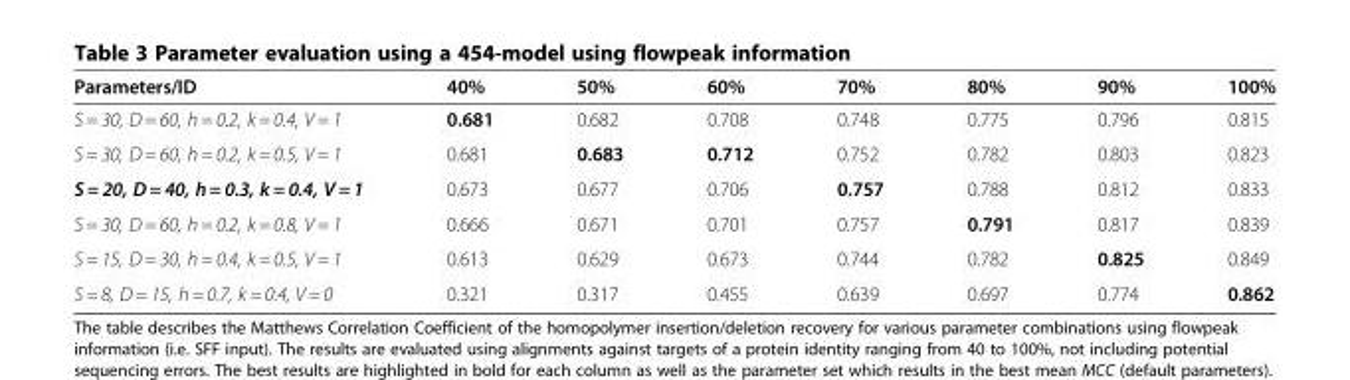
<table><thead><tr><td>Parameters/ID</td><td>40%</td><td>50%</td><td>60%</td><td>70%</td><td>80%</td><td>90%</td><td>100%</td></tr></thead><tbody><tr><td>S = 30, D = 60, h = 0.2, k = 0.4, V = 1</td><td>0.681</td><td>0.682</td><td>0.708</td><td>0.748</td><td>0.775</td><td>0.796</td><td>0.815</td></tr><tr><td>S = 30, D = 60, h = 0.2, k = 0.5, V = 1</td><td>0.681</td><td>0.683</td><td>0.712</td><td>0.752</td><td>0.782</td><td>0.803</td><td>0.823</td></tr><tr><td>S = 20, D = 40, h = 0.3, k = 0.4, V = 1</td><td>0.673</td><td>0.677</td><td>0.706</td><td>0.757</td><td>0.788</td><td>0.812</td><td>0.833</td></tr><tr><td>S = 30, D = 60, h = 0.2, k = 0.8, V = 1</td><td>0.666</td><td>0.671</td><td>0.701</td><td>0.757</td><td>0.791</td><td>0.817</td><td>0.839</td></tr><tr><td>S = 15, D = 30, h = 0.4, k = 0.5, V = 1</td><td>0.613</td><td>0.629</td><td>0.673</td><td>0.744</td><td>0.782</td><td>0.825</td><td>0.849</td></tr><tr><td>S = 8, D = 15, h = 0.7, k = 0.4, V = 0</td><td>0.321</td><td>0.317</td><td>0.455</td><td>0.639</td><td>0.697</td><td>0.774</td><td>0.862</td></tr></tbody></table>